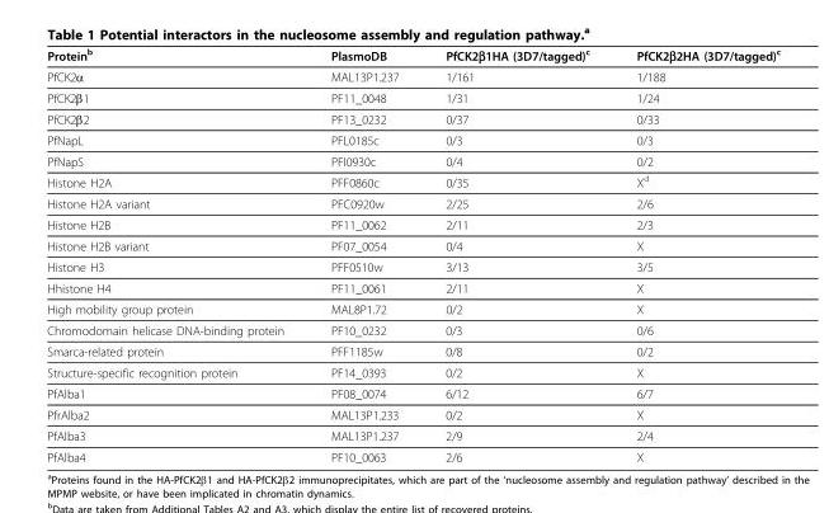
<table><thead><tr><td>Protein<sup>b</sup></td><td>PlasmoDB</td><td>PfCK2β1HA (3D7/tagged)<sup>c</sup></td><td>PfCK2β2HA (3D7/tagged)<sup>c</sup></td></tr></thead><tbody><tr><td>PfCK2α</td><td>MAL13P1.237</td><td>1/161</td><td>1/188</td></tr><tr><td>PfCK2β1</td><td>PF11_0048</td><td>1/31</td><td>1/24</td></tr><tr><td>PfCK2β2</td><td>PF13_0232</td><td>0/37</td><td>0/33</td></tr><tr><td>PfNapL</td><td>PFL0185c</td><td>0/3</td><td>0/3</td></tr><tr><td>PfNapS</td><td>PFI0930c</td><td>0/4</td><td>0/2</td></tr><tr><td>Histone H2A</td><td>PFF0860c</td><td>0/35</td><td>X<sup>d</sup></td></tr><tr><td>Histone H2A variant</td><td>PFC0920w</td><td>2/25</td><td>2/6</td></tr><tr><td>Histone H2B</td><td>PF11_0062</td><td>2/11</td><td>2/3</td></tr><tr><td>Histone H2B variant</td><td>PF07_0054</td><td>0/4</td><td>X</td></tr><tr><td>Histone H3</td><td>PFF0510w</td><td>3/13</td><td>3/5</td></tr><tr><td>Hhistone H4</td><td>PF11_0061</td><td>2/11</td><td>X</td></tr><tr><td>High mobility group protein</td><td>MAL8P1.72</td><td>0/2</td><td>X</td></tr><tr><td>Chromodomain helicase DNA-binding protein</td><td>PF10_0232</td><td>0/3</td><td>0/6</td></tr><tr><td>Smarca-related protein</td><td>PFF1185w</td><td>0/8</td><td>0/2</td></tr><tr><td>Structure-specific recognition protein</td><td>PF14_0393</td><td>0/2</td><td>X</td></tr><tr><td>PfAlba1</td><td>PF08_0074</td><td>6/12</td><td>6/7</td></tr><tr><td>PfrAlba2</td><td>MAL13P1.233</td><td>0/2</td><td>X</td></tr><tr><td>PfAlba3</td><td>MAL13P1.237</td><td>2/9</td><td>2/4</td></tr><tr><td>PfAlba4</td><td>PF10_0063</td><td>2/6</td><td>X</td></tr></tbody></table>